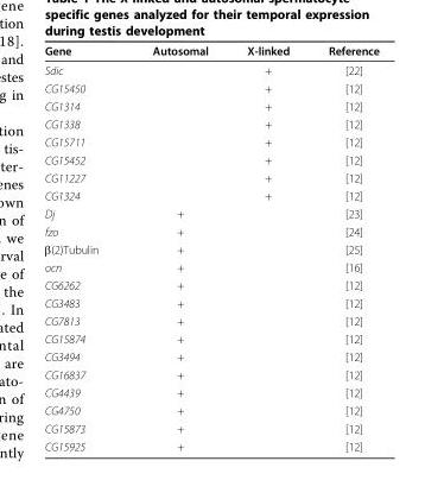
<table><thead><tr><td>Gene</td><td>Autosomal</td><td>X-linked</td><td>Reference</td></tr></thead><tbody><tr><td>Sdic</td><td></td><td>+</td><td>[22]</td></tr><tr><td>CG15450</td><td></td><td>+</td><td>[12]</td></tr><tr><td>CG1314</td><td></td><td>+</td><td>[12]</td></tr><tr><td>CG1338</td><td></td><td>+</td><td>[12]</td></tr><tr><td>CG15711</td><td></td><td>+</td><td>[12]</td></tr><tr><td>CG15452</td><td></td><td>+</td><td>[12]</td></tr><tr><td>CG11227</td><td></td><td>+</td><td>[12]</td></tr><tr><td>CG1324</td><td></td><td>+</td><td>[12]</td></tr><tr><td>Dj</td><td>+</td><td></td><td>[23]</td></tr><tr><td>fzo</td><td>+</td><td></td><td>[24]</td></tr><tr><td>β(2)Tubulin</td><td>+</td><td></td><td>[25]</td></tr><tr><td>ocn</td><td>+</td><td></td><td>[16]</td></tr><tr><td>CG6262</td><td>+</td><td></td><td>[12]</td></tr><tr><td>CG3483</td><td>+</td><td></td><td>[12]</td></tr><tr><td>CG7813</td><td>+</td><td></td><td>[12]</td></tr><tr><td>CG15874</td><td>+</td><td></td><td>[12]</td></tr><tr><td>CG3494</td><td>+</td><td></td><td>[12]</td></tr><tr><td>CG16837</td><td>+</td><td></td><td>[12]</td></tr><tr><td>CG4439</td><td>+</td><td></td><td>[12]</td></tr><tr><td>CG4750</td><td>+</td><td></td><td>[12]</td></tr><tr><td>CG15873</td><td>+</td><td></td><td>[12]</td></tr><tr><td>CG15925</td><td>+</td><td></td><td>[12]</td></tr></tbody></table>